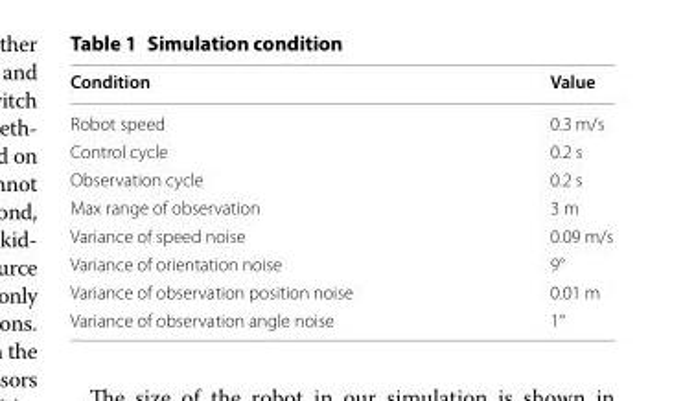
<table><thead><tr><td>Condition</td><td>Value</td></tr></thead><tbody><tr><td>Robot speed</td><td>0.3 m/s</td></tr><tr><td>Control cycle</td><td>0.2 s</td></tr><tr><td>Observation cycle</td><td>0.2 s</td></tr><tr><td>Max range of observation</td><td>3 m</td></tr><tr><td>Variance of speed noise</td><td>0.09 m/s</td></tr><tr><td>Variance of orientation noise</td><td>9°</td></tr><tr><td>Variance of observation position noise</td><td>0.01 m</td></tr><tr><td>Variance of observation angle noise</td><td>1°</td></tr></tbody></table>